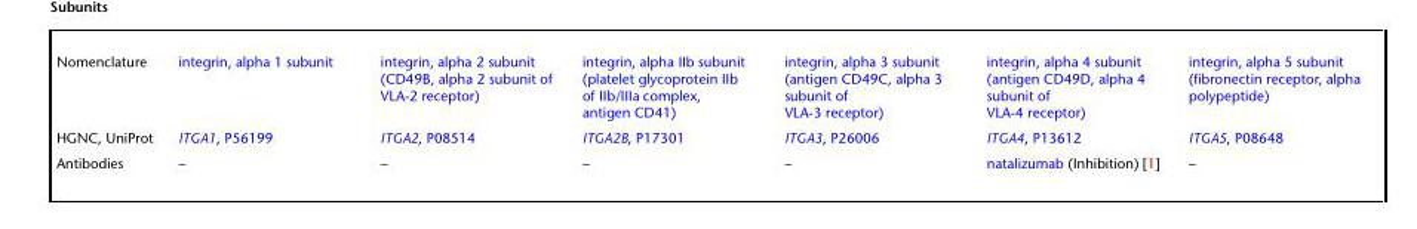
<table><tbody><tr><td>Nomenclature</td><td>integrin, alpha 1 subunit</td><td>integrin, alpha 2 subunit (CD49B, alpha 2 subunit of VLA-2 receptor)</td><td>integrin, alpha IIb subunit (platelet glycoprotein IIb of IIb/IIIa complex, antigen CD41)</td><td>integrin, alpha 3 subunit (antigen CD49C, alpha 3 subunit of VLA-3 receptor)</td><td>integrin, alpha 4 subunit (antigen CD49D, alpha 4 subunit of VLA-4 receptor)</td><td>integrin, alpha 5 subunit (fibronectin receptor, alpha polypeptide)</td></tr><tr><td>HGNC, UniProt</td><td>ITGA1, P56199</td><td>ITGA2, P08514</td><td>ITGA2B, P17301</td><td>ITGA3, P26006</td><td>ITGA4, P13612</td><td>ITGA5, P08648</td></tr><tr><td>Antibodies</td><td>–</td><td>–</td><td>–</td><td>–</td><td>natalizumab (Inhibition) [1]</td><td>–</td></tr></tbody></table>